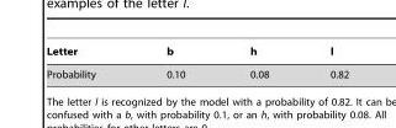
<table><thead><tr><td>Letter</td><td>b</td><td>h</td><td>l</td></tr></thead><tbody><tr><td>Probability</td><td>0.10</td><td>0.08</td><td>0.82</td></tr></tbody></table>